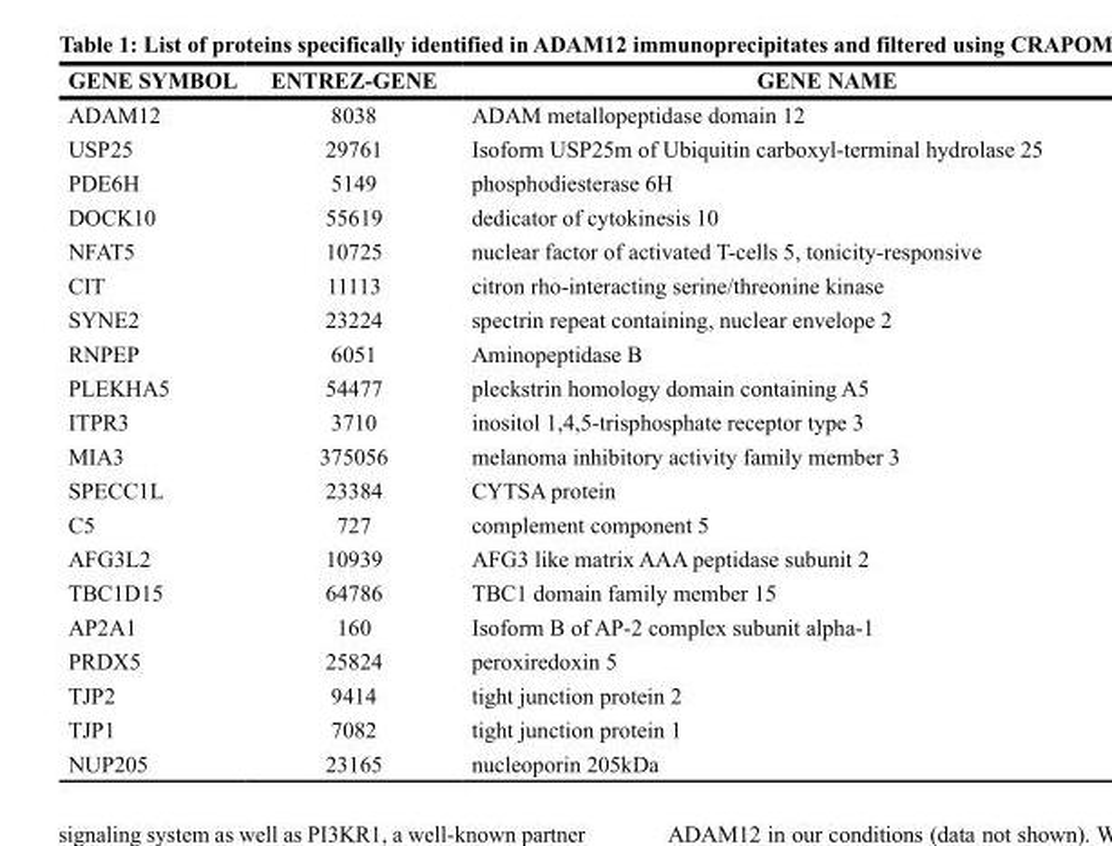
<table><thead><tr><td>GENE SYMBOL</td><td>ENTREZ-GENE</td><td>GENE NAME</td></tr></thead><tbody><tr><td>ADAM12</td><td>8038</td><td>ADAM metallopeptidase domain 12</td></tr><tr><td>USP25</td><td>29761</td><td>Isoform USP25m of Ubiquitin carboxyl-terminal hydrolase 25</td></tr><tr><td>PDE6H</td><td>5149</td><td>phosphodiesterase 6H</td></tr><tr><td>DOCK10</td><td>55619</td><td>dedicator of cytokinesis 10</td></tr><tr><td>NFAT5</td><td>10725</td><td>nuclear factor of activated T-cells 5, tonicity-responsive</td></tr><tr><td>CIT</td><td>11113</td><td>citron rho-interacting serine/threonine kinase</td></tr><tr><td>SYNE2</td><td>23224</td><td>spectrin repeat containing, nuclear envelope 2</td></tr><tr><td>RNPEP</td><td>6051</td><td>Aminopeptidase B</td></tr><tr><td>PLEKHA5</td><td>54477</td><td>pleckstrin homology domain containing A5</td></tr><tr><td>ITPR3</td><td>3710</td><td>inositol 1,4,5-trisphosphate receptor type 3</td></tr><tr><td>MIA3</td><td>375056</td><td>melanoma inhibitory activity family member 3</td></tr><tr><td>SPECC1L</td><td>23384</td><td>CYTSA protein</td></tr><tr><td>C5</td><td>727</td><td>complement component 5</td></tr><tr><td>AFG3L2</td><td>10939</td><td>AFG3 like matrix AAA peptidase subunit 2</td></tr><tr><td>TBC1D15</td><td>64786</td><td>TBC1 domain family member 15</td></tr><tr><td>AP2A1</td><td>160</td><td>Isoform B of AP-2 complex subunit alpha-1</td></tr><tr><td>PRDX5</td><td>25824</td><td>peroxiredoxin 5</td></tr><tr><td>TJP2</td><td>9414</td><td>tight junction protein 2</td></tr><tr><td>TJP1</td><td>7082</td><td>tight junction protein 1</td></tr><tr><td>NUP205</td><td>23165</td><td>nucleoporin 205kDa</td></tr></tbody></table>